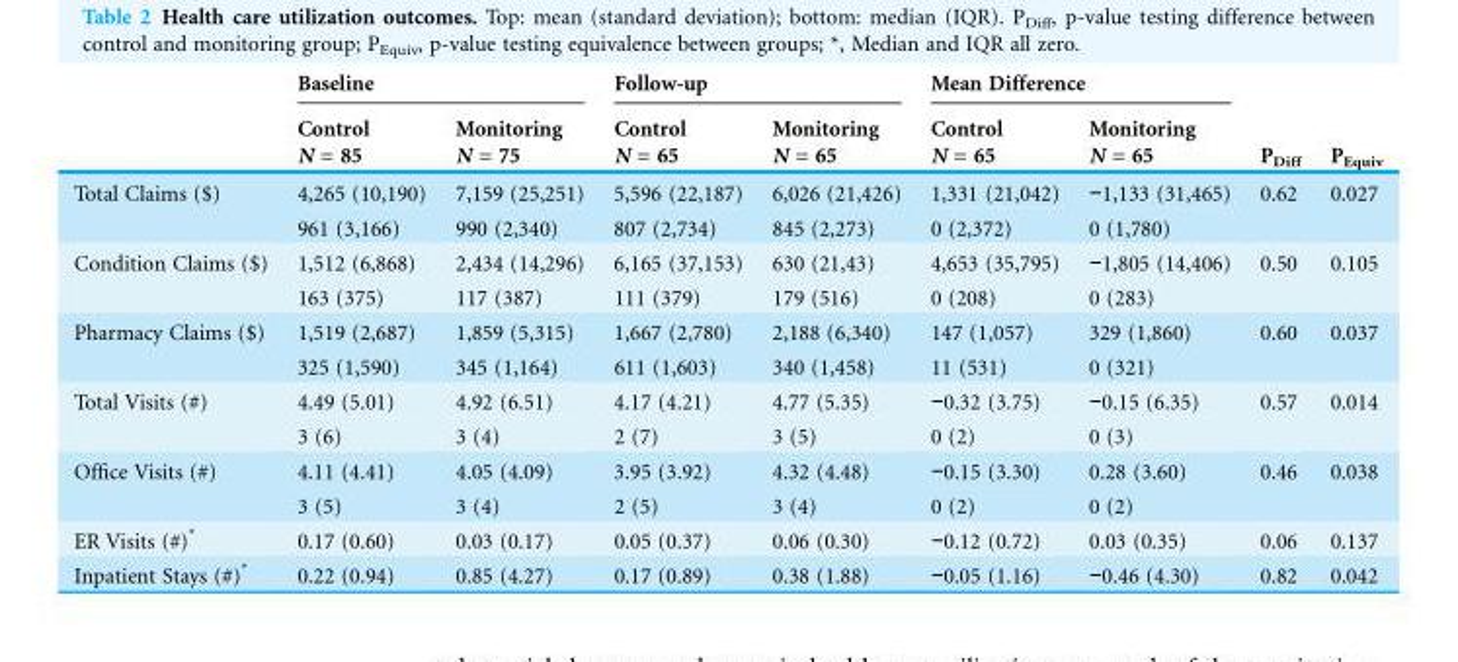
<table><thead><tr><td rowspan="2"></td><td colspan="2">Baseline</td><td colspan="2">Follow-up</td><td colspan="2">Mean Difference</td><td rowspan="2">P<sub>Diff</sub></td><td rowspan="2">P<sub>Equiv</sub></td></tr><tr><td>Control N = 85</td><td>Monitoring N = 75</td><td>Control N = 65</td><td>Monitoring N = 65</td><td>Control N = 65</td><td>Monitoring N = 65</td></tr></thead><tbody><tr><td rowspan="2">Total Claims ($)</td><td>4,265 (10,190)</td><td>7,159 (25,251)</td><td>5,596 (22,187)</td><td>6,026 (21,426)</td><td>1,331 (21,042)</td><td>−1,133 (31,465)</td><td rowspan="2">0.62</td><td rowspan="2">0.027</td></tr><tr><td>961 (3,166)</td><td>990 (2,340)</td><td>807 (2,734)</td><td>845 (2,273)</td><td>0 (2,372)</td><td>0 (1,780)</td></tr><tr><td rowspan="2">Condition Claims ($)</td><td>1,512 (6,868)</td><td>2,434 (14,296)</td><td>6,165 (37,153)</td><td>630 (21,43)</td><td>4,653 (35,795)</td><td>−1,805 (14,406)</td><td rowspan="2">0.50</td><td rowspan="2">0.105</td></tr><tr><td>163 (375)</td><td>117 (387)</td><td>111 (379)</td><td>179 (516)</td><td>0 (208)</td><td>0 (283)</td></tr><tr><td rowspan="2">Pharmacy Claims ($)</td><td>1,519 (2,687)</td><td>1,859 (5,315)</td><td>1,667 (2,780)</td><td>2,188 (6,340)</td><td>147 (1,057)</td><td>329 (1,860)</td><td rowspan="2">0.60</td><td rowspan="2">0.037</td></tr><tr><td>325 (1,590)</td><td>345 (1,164)</td><td>611 (1,603)</td><td>340 (1,458)</td><td>11 (531)</td><td>0 (321)</td></tr><tr><td rowspan="2">Total Visits (#)</td><td>4.49 (5.01)</td><td>4.92 (6.51)</td><td>4.17 (4.21)</td><td>4.77 (5.35)</td><td>−0.32 (3.75)</td><td>−0.15 (6.35)</td><td rowspan="2">0.57</td><td rowspan="2">0.014</td></tr><tr><td>3 (6)</td><td>3 (4)</td><td>2 (7)</td><td>3 (5)</td><td>0 (2)</td><td>0 (3)</td></tr><tr><td rowspan="2">Office Visits (#)</td><td>4.11 (4.41)</td><td>4.05 (4.09)</td><td>3.95 (3.92)</td><td>4.32 (4.48)</td><td>−0.15 (3.30)</td><td>0.28 (3.60)</td><td rowspan="2">0.46</td><td rowspan="2">0.038</td></tr><tr><td>3 (5)</td><td>3 (4)</td><td>2 (5)</td><td>3 (4)</td><td>0 (2)</td><td>0 (2)</td></tr><tr><td>ER Visits (#)*</td><td>0.17 (0.60)</td><td>0.03 (0.17)</td><td>0.05 (0.37)</td><td>0.06 (0.30)</td><td>−0.12 (0.72)</td><td>0.03 (0.35)</td><td>0.06</td><td>0.137</td></tr><tr><td>Inpatient Stays (#)*</td><td>0.22 (0.94)</td><td>0.85 (4.27)</td><td>0.17 (0.89)</td><td>0.38 (1.88)</td><td>−0.05 (1.16)</td><td>−0.46 (4.30)</td><td>0.82</td><td>0.042</td></tr></tbody></table>